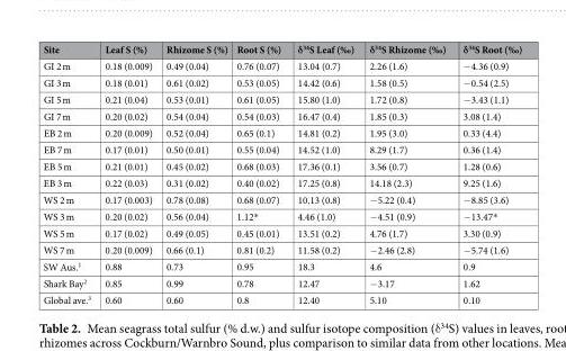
<table><thead><tr><td>Site</td><td>Leaf S (%)</td><td>Rhizome S (%)</td><td>Root S (%)</td><td>δ<sup>34</sup>S Leaf (‰)</td><td>δ<sup>34</sup>S Rhizome (‰)</td><td>δ<sup>34</sup>S Root (‰)</td></tr></thead><tbody><tr><td>GI 2 m</td><td>0.18 (0.009)</td><td>0.49 (0.04)</td><td>0.76 (0.07)</td><td>13.04 (0.7)</td><td>2.26 (1.6)</td><td>−4.36 (0.9)</td></tr><tr><td>GI 3 m</td><td>0.18 (0.01)</td><td>0.61 (0.02)</td><td>0.53 (0.05)</td><td>14.42 (0.6)</td><td>1.58 (0.5)</td><td>−0.54 (2.5)</td></tr><tr><td>GI 5 m</td><td>0.21 (0.04)</td><td>0.53 (0.01)</td><td>0.61 (0.05)</td><td>15.80 (1.0)</td><td>1.72 (0.8)</td><td>−3.43 (1.1)</td></tr><tr><td>GI 7 m</td><td>0.20 (0.02)</td><td>0.54 (0.04)</td><td>0.54 (0.03)</td><td>16.47 (0.4)</td><td>1.85 (0.3)</td><td>3.08 (1.4)</td></tr><tr><td>EB 2 m</td><td>0.20 (0.009)</td><td>0.52 (0.04)</td><td>0.65 (0.1)</td><td>14.81 (0.2)</td><td>1.95 (3.0)</td><td>0.33 (4.4)</td></tr><tr><td>EB 7 m</td><td>0.17 (0.01)</td><td>0.50 (0.01)</td><td>0.55 (0.04)</td><td>14.52 (1.0)</td><td>8.29 (1.7)</td><td>0.36 (1.4)</td></tr><tr><td>EB 5 m</td><td>0.21 (0.01)</td><td>0.45 (0.02)</td><td>0.68 (0.03)</td><td>17.36 (0.1)</td><td>3.56 (0.7)</td><td>1.28 (0.6)</td></tr><tr><td>EB 3 m</td><td>0.22 (0.03)</td><td>0.31 (0.02)</td><td>0.40 (0.02)</td><td>17.25 (0.8)</td><td>14.18 (2.3)</td><td>9.25 (1.6)</td></tr><tr><td>WS 2 m</td><td>0.17 (0.003)</td><td>0.78 (0.08)</td><td>0.68 (0.07)</td><td>10.13 (0.8)</td><td>−5.22 (0.4)</td><td>−8.85 (3.6)</td></tr><tr><td>WS 3 m</td><td>0.20 (0.02)</td><td>0.56 (0.04)</td><td>1.12*</td><td>4.46 (1.0)</td><td>−4.51 (0.9)</td><td>−13.47*</td></tr><tr><td>WS 5 m</td><td>0.17 (0.02)</td><td>0.49 (0.05)</td><td>0.45 (0.01)</td><td>13.51 (0.2)</td><td>4.76 (1.7)</td><td>3.30 (0.9)</td></tr><tr><td>WS 7 m</td><td>0.20 (0.009)</td><td>0.66 (0.1)</td><td>0.81 (0.2)</td><td>11.58 (0.2)</td><td>−2.46 (2.8)</td><td>−5.74 (1.6)</td></tr><tr><td>SW Aus.<sup>1</sup></td><td>0.88</td><td>0.73</td><td>0.95</td><td>18.3</td><td>4.6</td><td>0.9</td></tr><tr><td>Shark Bay<sup>2</sup></td><td>0.85</td><td>0.99</td><td>0.78</td><td>12.47</td><td>−3.17</td><td>1.62</td></tr><tr><td>Global ave.<sup>3</sup></td><td>0.60</td><td>0.60</td><td>0.8</td><td>12.40</td><td>5.10</td><td>0.10</td></tr></tbody></table>